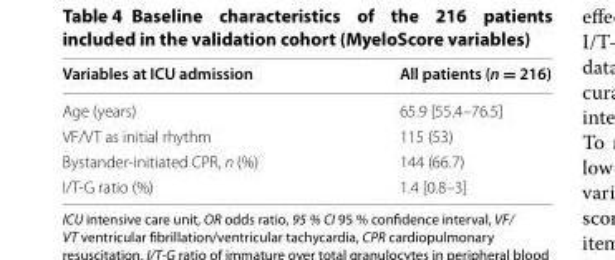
<table><thead><tr><td>Variables at ICU admission</td><td>All patients (n = 216)</td></tr></thead><tbody><tr><td>Age (years)</td><td>65.9 [55.4–76.5]</td></tr><tr><td>VF/VT as initial rhythm</td><td>115 (53)</td></tr><tr><td>Bystander‑initiated CPR, n (%)</td><td>144 (66.7)</td></tr><tr><td>I/T‑G ratio (%)</td><td>1.4 [0.8–3]</td></tr></tbody></table>